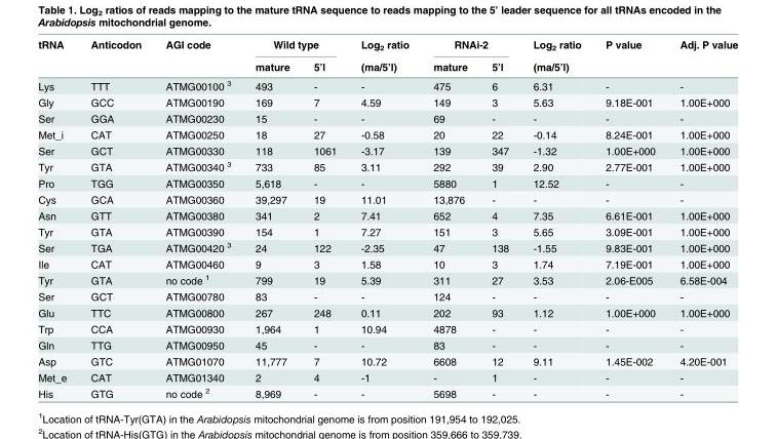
<table><thead><tr><td rowspan="2">tRNA</td><td rowspan="2">Anticodon</td><td rowspan="2">AGI code</td><td colspan="2">Wild type</td><td rowspan="2">Log<sub>2</sub> ratio (ma/5’l)</td><td colspan="2">RNAi-2</td><td rowspan="2">Log<sub>2</sub> ratio (ma/5’l)</td><td rowspan="2">P value</td><td rowspan="2">Adj. P value</td></tr><tr><td>mature</td><td>5’l</td><td>mature</td><td>5’l</td></tr></thead><tbody><tr><td>Lys</td><td>TTT</td><td>ATMG00100 <sup>3</sup></td><td>493</td><td>-</td><td>-</td><td>475</td><td>6</td><td>6.31</td><td>-</td><td>-</td></tr><tr><td>Gly</td><td>GCC</td><td>ATMG00190</td><td>169</td><td>7</td><td>4.59</td><td>149</td><td>3</td><td>5.63</td><td>9.18E-001</td><td>1.00E+000</td></tr><tr><td>Ser</td><td>GGA</td><td>ATMG00230</td><td>15</td><td>-</td><td>-</td><td>69</td><td>-</td><td>-</td><td>-</td><td>-</td></tr><tr><td>Met_i</td><td>CAT</td><td>ATMG00250</td><td>18</td><td>27</td><td>-0.58</td><td>20</td><td>22</td><td>-0.14</td><td>8.24E-001</td><td>1.00E+000</td></tr><tr><td>Ser</td><td>GCT</td><td>ATMG00330</td><td>118</td><td>1061</td><td>-3.17</td><td>139</td><td>347</td><td>-1.32</td><td>1.00E+000</td><td>1.00E+000</td></tr><tr><td>Tyr</td><td>GTA</td><td>ATMG00340 <sup>3</sup></td><td>733</td><td>85</td><td>3.11</td><td>292</td><td>39</td><td>2.90</td><td>2.77E-001</td><td>1.00E+000</td></tr><tr><td>Pro</td><td>TGG</td><td>ATMG00350</td><td>5,618</td><td>-</td><td>-</td><td>5880</td><td>1</td><td>12.52</td><td>-</td><td>-</td></tr><tr><td>Cys</td><td>GCA</td><td>ATMG00360</td><td>39,297</td><td>19</td><td>11.01</td><td>13,876</td><td>-</td><td>-</td><td>-</td><td>-</td></tr><tr><td>Asn</td><td>GTT</td><td>ATMG00380</td><td>341</td><td>2</td><td>7.41</td><td>652</td><td>4</td><td>7.35</td><td>6.61E-001</td><td>1.00E+000</td></tr><tr><td>Tyr</td><td>GTA</td><td>ATMG00390</td><td>154</td><td>1</td><td>7.27</td><td>151</td><td>3</td><td>5.65</td><td>3.09E-001</td><td>1.00E+000</td></tr><tr><td>Ser</td><td>TGA</td><td>ATMG00420 <sup>3</sup></td><td>24</td><td>122</td><td>-2.35</td><td>47</td><td>138</td><td>-1.55</td><td>9.83E-001</td><td>1.00E+000</td></tr><tr><td>Ile</td><td>CAT</td><td>ATMG00460</td><td>9</td><td>3</td><td>1.58</td><td>10</td><td>3</td><td>1.74</td><td>7.19E-001</td><td>1.00E+000</td></tr><tr><td>Tyr</td><td>GTA</td><td>no code <sup>1</sup></td><td>799</td><td>19</td><td>5.39</td><td>311</td><td>27</td><td>3.53</td><td>2.06-E005</td><td>6.58E-004</td></tr><tr><td>Ser</td><td>GCT</td><td>ATMG00780</td><td>83</td><td>-</td><td>-</td><td>124</td><td>-</td><td>-</td><td>-</td><td>-</td></tr><tr><td>Glu</td><td>TTC</td><td>ATMG00800</td><td>267</td><td>248</td><td>0.11</td><td>202</td><td>93</td><td>1.12</td><td>1.00E+000</td><td>1.00E+000</td></tr><tr><td>Trp</td><td>CCA</td><td>ATMG00930</td><td>1,964</td><td>1</td><td>10.94</td><td>4878</td><td>-</td><td>-</td><td>-</td><td>-</td></tr><tr><td>Gln</td><td>TTG</td><td>ATMG00950</td><td>45</td><td>-</td><td>-</td><td>83</td><td>-</td><td>-</td><td>-</td><td>-</td></tr><tr><td>Asp</td><td>GTC</td><td>ATMG01070</td><td>11,777</td><td>7</td><td>10.72</td><td>6608</td><td>12</td><td>9.11</td><td>1.45E-002</td><td>4.20E-001</td></tr><tr><td>Met_e</td><td>CAT</td><td>ATMG01340</td><td>2</td><td>4</td><td>-1</td><td>-</td><td>1</td><td>-</td><td>-</td><td>-</td></tr><tr><td>His</td><td>GTG</td><td>no code <sup>2</sup></td><td>8,969</td><td>-</td><td>-</td><td>5698</td><td>-</td><td>-</td><td>-</td><td>-</td></tr></tbody></table>